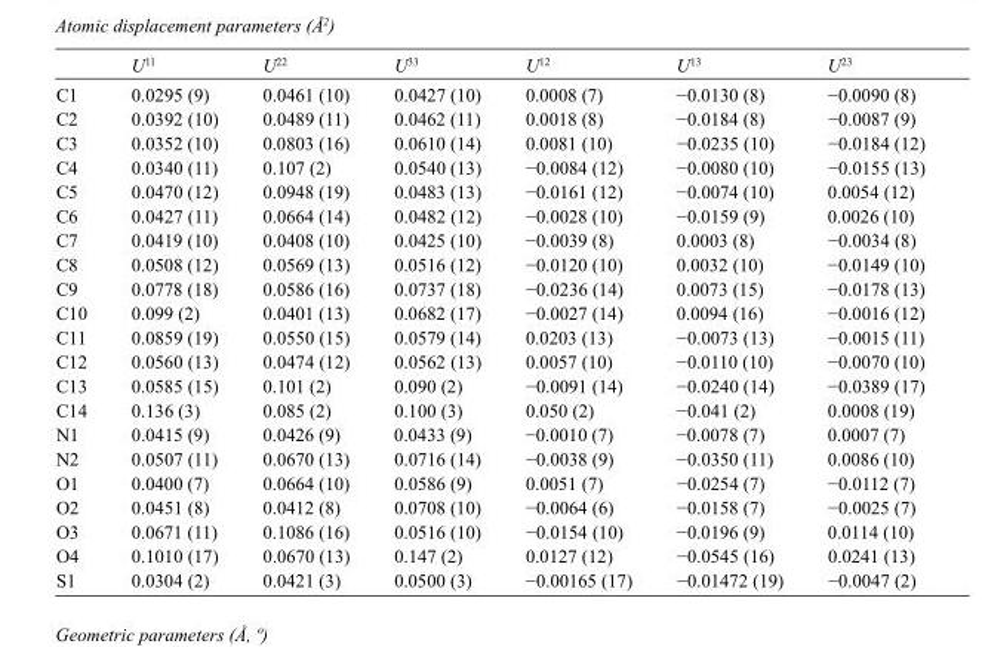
<table><thead><tr><td></td><td>U<sup>11</sup></td><td>U<sup>22</sup></td><td>U<sup>33</sup></td><td>U<sup>12</sup></td><td>U<sup>13</sup></td><td>U<sup>23</sup></td></tr></thead><tbody><tr><td>C1</td><td>0.0295 (9)</td><td>0.0461 (10)</td><td>0.0427 (10)</td><td>0.0008 (7)</td><td>−0.0130 (8)</td><td>−0.0090 (8)</td></tr><tr><td>C2</td><td>0.0392 (10)</td><td>0.0489 (11)</td><td>0.0462 (11)</td><td>0.0018 (8)</td><td>−0.0184 (8)</td><td>−0.0087 (9)</td></tr><tr><td>C3</td><td>0.0352 (10)</td><td>0.0803 (16)</td><td>0.0610 (14)</td><td>0.0081 (10)</td><td>−0.0235 (10)</td><td>−0.0184 (12)</td></tr><tr><td>C4</td><td>0.0340 (11)</td><td>0.107 (2)</td><td>0.0540 (13)</td><td>−0.0084 (12)</td><td>−0.0080 (10)</td><td>−0.0155 (13)</td></tr><tr><td>C5</td><td>0.0470 (12)</td><td>0.0948 (19)</td><td>0.0483 (13)</td><td>−0.0161 (12)</td><td>−0.0074 (10)</td><td>0.0054 (12)</td></tr><tr><td>C6</td><td>0.0427 (11)</td><td>0.0664 (14)</td><td>0.0482 (12)</td><td>−0.0028 (10)</td><td>−0.0159 (9)</td><td>0.0026 (10)</td></tr><tr><td>C7</td><td>0.0419 (10)</td><td>0.0408 (10)</td><td>0.0425 (10)</td><td>−0.0039 (8)</td><td>0.0003 (8)</td><td>−0.0034 (8)</td></tr><tr><td>C8</td><td>0.0508 (12)</td><td>0.0569 (13)</td><td>0.0516 (12)</td><td>−0.0120 (10)</td><td>0.0032 (10)</td><td>−0.0149 (10)</td></tr><tr><td>C9</td><td>0.0778 (18)</td><td>0.0586 (16)</td><td>0.0737 (18)</td><td>−0.0236 (14)</td><td>0.0073 (15)</td><td>−0.0178 (13)</td></tr><tr><td>C10</td><td>0.099 (2)</td><td>0.0401 (13)</td><td>0.0682 (17)</td><td>−0.0027 (14)</td><td>0.0094 (16)</td><td>−0.0016 (12)</td></tr><tr><td>C11</td><td>0.0859 (19)</td><td>0.0550 (15)</td><td>0.0579 (14)</td><td>0.0203 (13)</td><td>−0.0073 (13)</td><td>−0.0015 (11)</td></tr><tr><td>C12</td><td>0.0560 (13)</td><td>0.0474 (12)</td><td>0.0562 (13)</td><td>0.0057 (10)</td><td>−0.0110 (10)</td><td>−0.0070 (10)</td></tr><tr><td>C13</td><td>0.0585 (15)</td><td>0.101 (2)</td><td>0.090 (2)</td><td>−0.0091 (14)</td><td>−0.0240 (14)</td><td>−0.0389 (17)</td></tr><tr><td>C14</td><td>0.136 (3)</td><td>0.085 (2)</td><td>0.100 (3)</td><td>0.050 (2)</td><td>−0.041 (2)</td><td>0.0008 (19)</td></tr><tr><td>N1</td><td>0.0415 (9)</td><td>0.0426 (9)</td><td>0.0433 (9)</td><td>−0.0010 (7)</td><td>−0.0078 (7)</td><td>0.0007 (7)</td></tr><tr><td>N2</td><td>0.0507 (11)</td><td>0.0670 (13)</td><td>0.0716 (14)</td><td>−0.0038 (9)</td><td>−0.0350 (11)</td><td>0.0086 (10)</td></tr><tr><td>O1</td><td>0.0400 (7)</td><td>0.0664 (10)</td><td>0.0586 (9)</td><td>0.0051 (7)</td><td>−0.0254 (7)</td><td>−0.0112 (7)</td></tr><tr><td>O2</td><td>0.0451 (8)</td><td>0.0412 (8)</td><td>0.0708 (10)</td><td>−0.0064 (6)</td><td>−0.0158 (7)</td><td>−0.0025 (7)</td></tr><tr><td>O3</td><td>0.0671 (11)</td><td>0.1086 (16)</td><td>0.0516 (10)</td><td>−0.0154 (10)</td><td>−0.0196 (9)</td><td>0.0114 (10)</td></tr><tr><td>O4</td><td>0.1010 (17)</td><td>0.0670 (13)</td><td>0.147 (2)</td><td>0.0127 (12)</td><td>−0.0545 (16)</td><td>0.0241 (13)</td></tr><tr><td>S1</td><td>0.0304 (2)</td><td>0.0421 (3)</td><td>0.0500 (3)</td><td>−0.00165 (17)</td><td>−0.01472 (19)</td><td>−0.0047 (2)</td></tr></tbody></table>